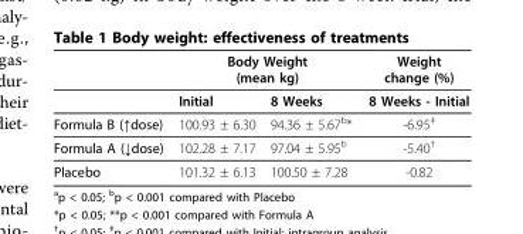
<table><thead><tr><td rowspan="2"></td><td colspan="2">Body Weight (mean kg)</td><td rowspan="2">Weight change (%) 8 Weeks - Initial</td></tr><tr><td>Initial</td><td>8 Weeks</td></tr></thead><tbody><tr><td>Formula B (↑dose)</td><td>100.93 ± 6.30</td><td>94.36 ± 5.67<sup>b</sup>*</td><td>-6.95<sup>‡</sup></td></tr><tr><td>Formula A (↓dose)</td><td>102.28 ± 7.17</td><td>97.04 ± 5.95<sup>b</sup></td><td>-5.40<sup>†</sup></td></tr><tr><td>Placebo</td><td>101.32 ± 6.13</td><td>100.50 ± 7.28</td><td>-0.82</td></tr></tbody></table>